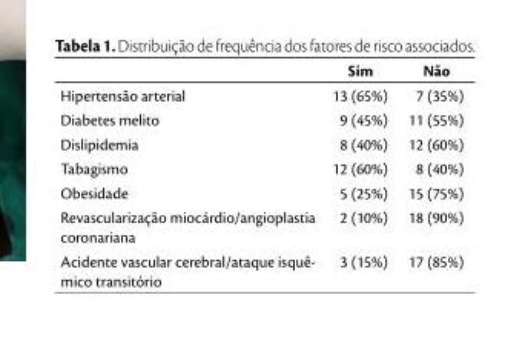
<table><thead><tr><td></td><td>Sim</td><td>Não</td></tr></thead><tbody><tr><td>Hipertensão arterial</td><td>13 (65%)</td><td>7 (35%)</td></tr><tr><td>Diabetes melito</td><td>9 (45%)</td><td>11 (55%)</td></tr><tr><td>Dislipidemia</td><td>8 (40%)</td><td>12 (60%)</td></tr><tr><td>Tabagismo</td><td>12 (60%)</td><td>8 (40%)</td></tr><tr><td>Obesidade</td><td>5 (25%)</td><td>15 (75%)</td></tr><tr><td>Revascularização miocárdio/angioplastia coronariana</td><td>2 (10%)</td><td>18 (90%)</td></tr><tr><td>Acidente vascular cerebral/ataque isquê- mico transitório</td><td>3 (15%)</td><td>17 (85%)</td></tr></tbody></table>